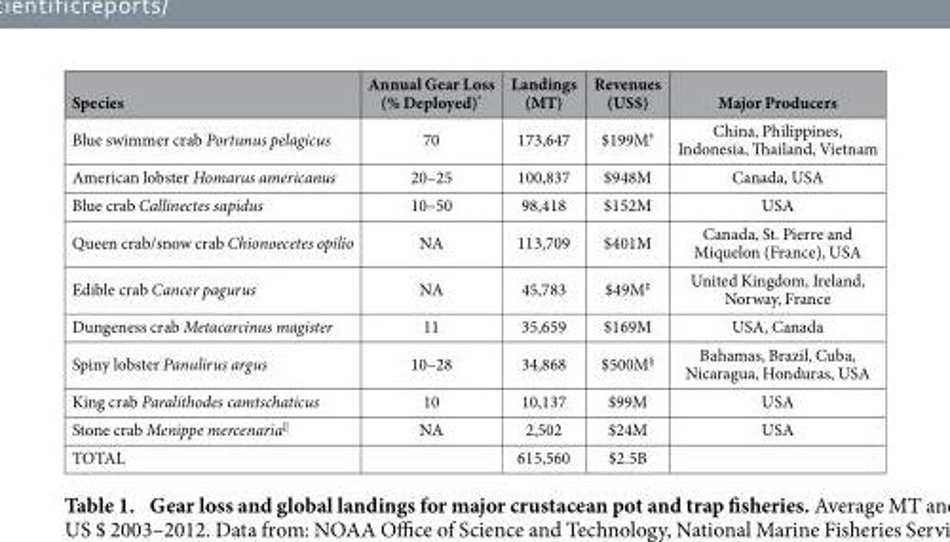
<table><thead><tr><td>Species</td><td>Annual Gear Loss (% Deployed)*</td><td>Landings (MT)</td><td>Revenues (US$)</td><td>Major Producers</td></tr></thead><tbody><tr><td>Blue swimmer crab Portunus pelagicus</td><td>70</td><td>173,647</td><td>$199M†</td><td>China, Philippines, Indonesia, Thailand, Vietnam</td></tr><tr><td>American lobster Homarus americanus</td><td>20–25</td><td>100,837</td><td>$948M</td><td>Canada, USA</td></tr><tr><td>Blue crab Callinectes sapidus</td><td>10–50</td><td>98,418</td><td>$152M</td><td>USA</td></tr><tr><td>Queen crab/snow crab Chionoecetes opilio</td><td>NA</td><td>113,709</td><td>$401M</td><td>Canada, St. Pierre and Miquelon (France), USA</td></tr><tr><td>Edible crab Cancer pagurus</td><td>NA</td><td>45,783</td><td>$49M‡</td><td>United Kingdom, Ireland, Norway, France</td></tr><tr><td>Dungeness crab Metacarcinus magister</td><td>11</td><td>35,659</td><td>$169M</td><td>USA, Canada</td></tr><tr><td>Spiny lobster Panulirus argus</td><td>10–28</td><td>34,868</td><td>$500M§</td><td>Bahamas, Brazil, Cuba, Nicaragua, Honduras, USA</td></tr><tr><td>King crab Paralithodes camtschaticus</td><td>10</td><td>10,137</td><td>$99M</td><td>USA</td></tr><tr><td>Stone crab Menippe mercenaria||</td><td>NA</td><td>2,502</td><td>$24M</td><td>USA</td></tr><tr><td>TOTAL</td><td></td><td>615,560</td><td>$2.5B</td><td></td></tr></tbody></table>